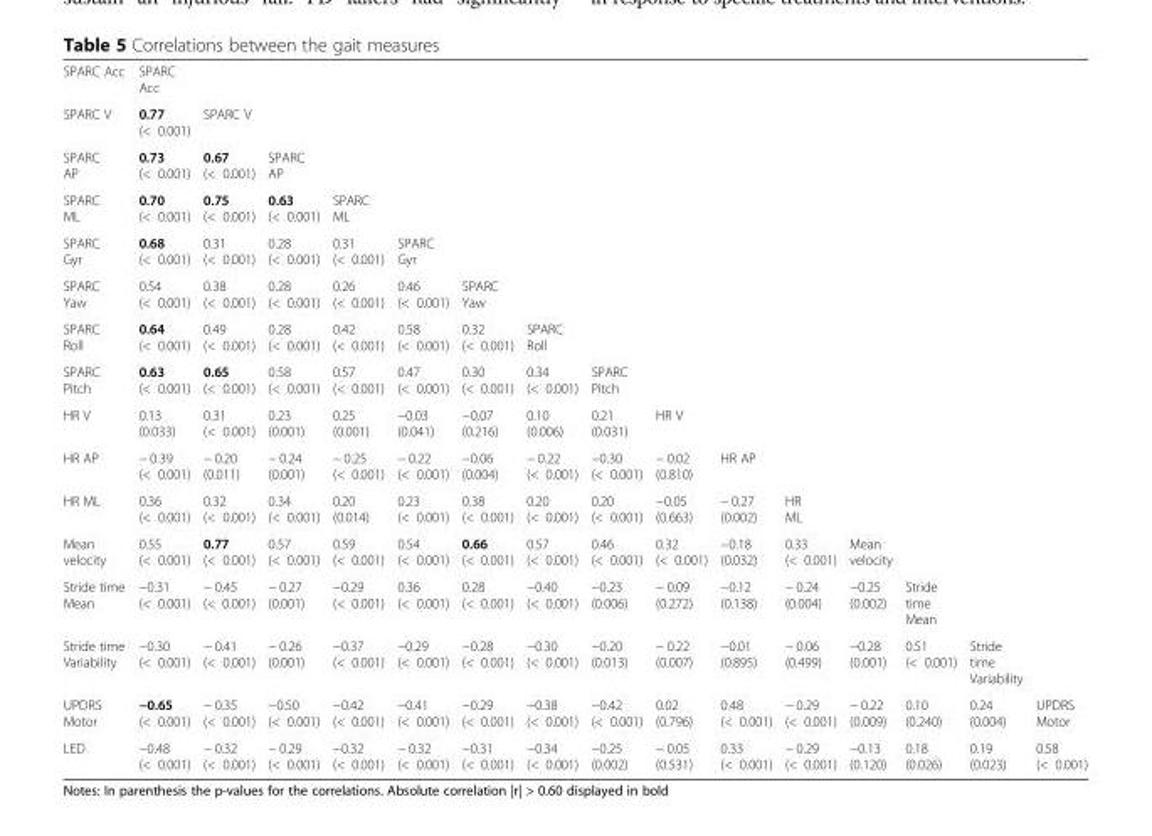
<table><tbody><tr><td>SPARC Acc</td><td>SPARC Acc</td><td></td><td></td><td></td><td></td><td></td><td></td><td></td><td></td><td></td><td></td><td></td><td></td><td></td><td></td></tr><tr><td>SPARC V</td><td>0.77 (&lt; 0.001)</td><td>SPARC V</td><td></td><td></td><td></td><td></td><td></td><td></td><td></td><td></td><td></td><td></td><td></td><td></td><td></td></tr><tr><td>SPARC AP</td><td>0.73 (&lt; 0.001)</td><td>0.67 (&lt; 0.001)</td><td>SPARC AP</td><td></td><td></td><td></td><td></td><td></td><td></td><td></td><td></td><td></td><td></td><td></td><td></td></tr><tr><td>SPARC ML</td><td>0.70 (&lt; 0.001)</td><td>0.75 (&lt; 0.001)</td><td>0.63 (&lt; 0.001)</td><td>SPARC ML</td><td></td><td></td><td></td><td></td><td></td><td></td><td></td><td></td><td></td><td></td><td></td></tr><tr><td>SPARC Gyr</td><td>0.68 (&lt; 0.001)</td><td>0.31 (&lt; 0.001)</td><td>0.28 (&lt; 0.001)</td><td>0.31 (&lt; 0.001)</td><td>SPARC Gyr</td><td></td><td></td><td></td><td></td><td></td><td></td><td></td><td></td><td></td><td></td></tr><tr><td>SPARC Yaw</td><td>0.54 (&lt; 0.001)</td><td>0.38 (&lt; 0.001)</td><td>0.28 (&lt; 0.001)</td><td>0.26 (&lt; 0.001)</td><td>0.46 (&lt; 0.001)</td><td>SPARC Yaw</td><td></td><td></td><td></td><td></td><td></td><td></td><td></td><td></td><td></td></tr><tr><td>SPARC Roll</td><td>0.64 (&lt; 0.001)</td><td>0.49 (&lt; 0.001)</td><td>0.28 (&lt; 0.001)</td><td>0.42 (&lt; 0.001)</td><td>0.58 (&lt; 0.001)</td><td>0.32 (&lt; 0.001)</td><td>SPARC Roll</td><td></td><td></td><td></td><td></td><td></td><td></td><td></td><td></td></tr><tr><td>SPARC Pitch</td><td>0.63 (&lt; 0.001)</td><td>0.65 (&lt; 0.001)</td><td>0.58 (&lt; 0.001)</td><td>0.57 (&lt; 0.001)</td><td>0.47 (&lt; 0.001)</td><td>0.30 (&lt; 0.001)</td><td>0.34 (&lt; 0.001)</td><td>SPARC Pitch</td><td></td><td></td><td></td><td></td><td></td><td></td><td></td></tr><tr><td>HR V</td><td>0.13 (0.033)</td><td>0.31 (&lt; 0.001)</td><td>0.23 (0.001)</td><td>0.25 (0.001)</td><td>−0.03 (0.041)</td><td>−0.07 (0.216)</td><td>0.10 (0.006)</td><td>0.21 (0.031)</td><td>HR V</td><td></td><td></td><td></td><td></td><td></td><td></td></tr><tr><td>HR AP</td><td>− 0.39 (&lt; 0.001)</td><td>− 0.20 (0.011)</td><td>− 0.24 (0.001)</td><td>− 0.25 (&lt; 0.001)</td><td>− 0.22 (&lt; 0.001)</td><td>−0.06 (0.004)</td><td>− 0.22 (&lt; 0.001)</td><td>−0.30 (&lt; 0.001)</td><td>− 0.02 (0.810)</td><td>HR AP</td><td></td><td></td><td></td><td></td><td></td></tr><tr><td>HR ML</td><td>0.36 (&lt; 0.001)</td><td>0.32 (&lt; 0.001)</td><td>0.34 (&lt; 0.001)</td><td>0.20 (0.014)</td><td>0.23 (&lt; 0.001)</td><td>0.38 (&lt; 0.001)</td><td>0.20 (&lt; 0.001)</td><td>0.20 (&lt; 0.001)</td><td>−0.05 (0.663)</td><td>− 0.27 (0.002)</td><td>HR ML</td><td></td><td></td><td></td><td></td></tr><tr><td>Mean velocity</td><td>0.55 (&lt; 0.001)</td><td>0.77 (&lt; 0.001)</td><td>0.57 (&lt; 0.001)</td><td>0.59 (&lt; 0.001)</td><td>0.54 (&lt; 0.001)</td><td>0.66 (&lt; 0.001)</td><td>0.57 (&lt; 0.001)</td><td>0.46 (&lt; 0.001)</td><td>0.32 (&lt; 0.001)</td><td>−0.18 (0.032)</td><td>0.33 (&lt; 0.001)</td><td>Mean velocity</td><td></td><td></td><td></td></tr><tr><td>Stride time Mean</td><td>−0.31 (&lt; 0.001)</td><td>− 0.45 (&lt; 0.001)</td><td>− 0.27 (0.001)</td><td>−0.29 (&lt; 0.001)</td><td>0.36 (&lt; 0.001)</td><td>0.28 (&lt; 0.001)</td><td>−0.40 (&lt; 0.001)</td><td>−0.23 (0.006)</td><td>− 0.09 (0.272)</td><td>−0.12 (0.138)</td><td>− 0.24 (0.004)</td><td>−0.25 (0.002)</td><td>Stride time Mean</td><td></td><td></td></tr><tr><td>Stride time Variability</td><td>−0.30 (&lt; 0.001)</td><td>− 0.41 (&lt; 0.001)</td><td>− 0.26 (0.001)</td><td>−0.37 (&lt; 0.001)</td><td>−0.29 (&lt; 0.001)</td><td>−0.28 (&lt; 0.001)</td><td>−0.30 (&lt; 0.001)</td><td>−0.20 (0.013)</td><td>− 0.22 (0.007)</td><td>−0.01 (0.895)</td><td>− 0.06 (0.499)</td><td>−0.28 (0.001)</td><td>0.51 (&lt; 0.001)</td><td>Stride time Variability</td><td></td></tr><tr><td>UPDRS Motor</td><td>−0.65 (&lt; 0.001)</td><td>− 0.35 (&lt; 0.001)</td><td>−0.50 (&lt; 0.001)</td><td>−0.42 (&lt; 0.001)</td><td>−0.41 (&lt; 0.001)</td><td>−0.29 (&lt; 0.001)</td><td>−0.38 (&lt; 0.001)</td><td>−0.42 (&lt; 0.001)</td><td>0.02 (0.796)</td><td>0.48 (&lt; 0.001)</td><td>− 0.29 (&lt; 0.001)</td><td>− 0.22 (0.009)</td><td>0.10 (0.240)</td><td>0.24 (0.004)</td><td>UPDRS Motor</td></tr><tr><td>LED</td><td>−0.48 (&lt; 0.001)</td><td>− 0.32 (&lt; 0.001)</td><td>− 0.29 (&lt; 0.001)</td><td>−0.32 (&lt; 0.001)</td><td>− 0.32 (&lt; 0.001)</td><td>−0.31 (&lt; 0.001)</td><td>−0.34 (&lt; 0.001)</td><td>−0.25 (0.002)</td><td>− 0.05 (0.531)</td><td>0.33 (&lt; 0.001)</td><td>− 0.29 (&lt; 0.001)</td><td>−0.13 (0.120)</td><td>0.18 (0.026)</td><td>0.19 (0.023)</td><td>0.58 (&lt; 0.001)</td></tr></tbody></table>